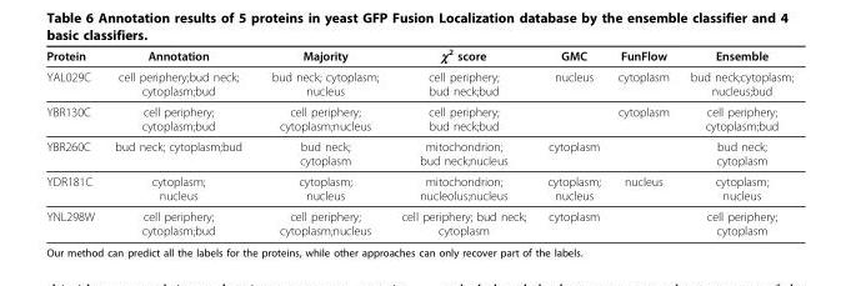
<table><thead><tr><td>Protein</td><td>Annotation</td><td>Majority</td><td>χ<sup>2</sup> score</td><td>GMC</td><td>FunFlow</td><td>Ensemble</td></tr></thead><tbody><tr><td>YAL029C</td><td>cell periphery;bud neck; cytoplasm;bud</td><td>bud neck; cytoplasm; nucleus</td><td>cell periphery; bud neck;bud</td><td>nucleus</td><td>cytoplasm</td><td>bud neck;cytoplasm; nucleus;bud</td></tr><tr><td>YBR130C</td><td>cell periphery; cytoplasm;bud</td><td>cell periphery; cytoplasm;nucleus</td><td>cell periphery; bud neck;bud</td><td></td><td>cytoplasm</td><td>cell periphery; cytoplasm;bud</td></tr><tr><td>YBR260C</td><td>bud neck; cytoplasm;bud</td><td>bud neck; cytoplasm</td><td>mitochondrion; bud neck;nucleus</td><td>cytoplasm</td><td></td><td>bud neck; cytoplasm</td></tr><tr><td>YDR181C</td><td>cytoplasm; nucleus</td><td>cytoplasm; nucleus</td><td>mitochondrion; nucleolus;nucleus</td><td>cytoplasm; nucleus</td><td>nucleus</td><td>cytoplasm; nucleus</td></tr><tr><td>YNL298W</td><td>cell periphery; cytoplasm;bud</td><td>cell periphery; cytoplasm;nucleus</td><td>cell periphery; bud neck; cytoplasm</td><td>cytoplasm</td><td></td><td>cell periphery; cytoplasm</td></tr></tbody></table>